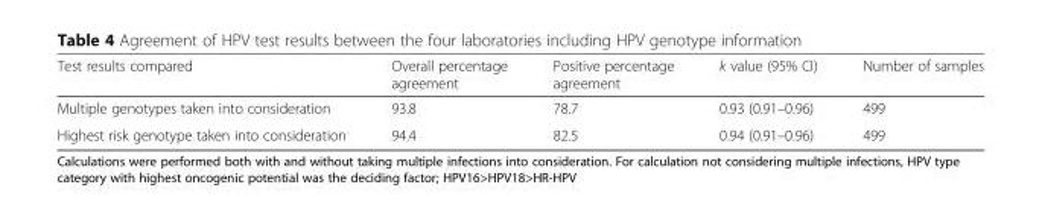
<table><thead><tr><td>Test results compared</td><td>Overall percentage agreement</td><td>Positive percentage agreement</td><td>k value (95% CI)</td><td>Number of samples</td></tr></thead><tbody><tr><td>Multiple genotypes taken into consideration</td><td>93.8</td><td>78.7</td><td>0.93 (0.91–0.96)</td><td>499</td></tr><tr><td>Highest risk genotype taken into consideration</td><td>94.4</td><td>82.5</td><td>0.94 (0.91–0.96)</td><td>499</td></tr></tbody></table>